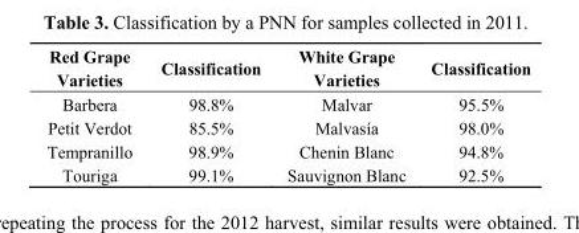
<table><thead><tr><td>Red Grape Varieties</td><td>Classification</td><td>White Grape Varieties</td><td>Classification</td></tr></thead><tbody><tr><td>Barbera</td><td>98.8%</td><td>Malvar</td><td>95.5%</td></tr><tr><td>Petit Verdot</td><td>85.5%</td><td>Malvasía</td><td>98.0%</td></tr><tr><td>Tempranillo</td><td>98.9%</td><td>Chenin Blanc</td><td>94.8%</td></tr><tr><td>Touriga</td><td>99.1%</td><td>Sauvignon Blanc</td><td>92.5%</td></tr></tbody></table>